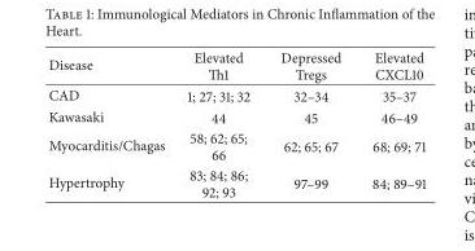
<table><thead><tr><td>Disease</td><td>Elevated Th1</td><td>Depressed Tregs</td><td>Elevated CXCL10</td></tr></thead><tbody><tr><td>CAD</td><td>1; 27; 31; 32</td><td>32–34</td><td>35–37</td></tr><tr><td>Kawasaki</td><td>44</td><td>45</td><td>46–49</td></tr><tr><td>Myocarditis/Chagas</td><td>58; 62; 65; 66</td><td>62; 65; 67</td><td>68; 69; 71</td></tr><tr><td>Hypertrophy</td><td>83; 84; 86; 92; 93</td><td>97–99</td><td>84; 89–91</td></tr></tbody></table>